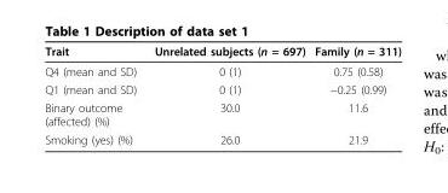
<table><thead><tr><td>Trait</td><td>Unrelated subjects (n = 697)</td><td>Family (n = 311)</td></tr></thead><tbody><tr><td>Q4 (mean and SD)</td><td>0 (1)</td><td>0.75 (0.58)</td></tr><tr><td>Q1 (mean and SD)</td><td>0 (1)</td><td>−0.25 (0.99)</td></tr><tr><td>Binary outcome (affected) (%)</td><td>30.0</td><td>11.6</td></tr><tr><td>Smoking (yes) (%)</td><td>26.0</td><td>21.9</td></tr></tbody></table>